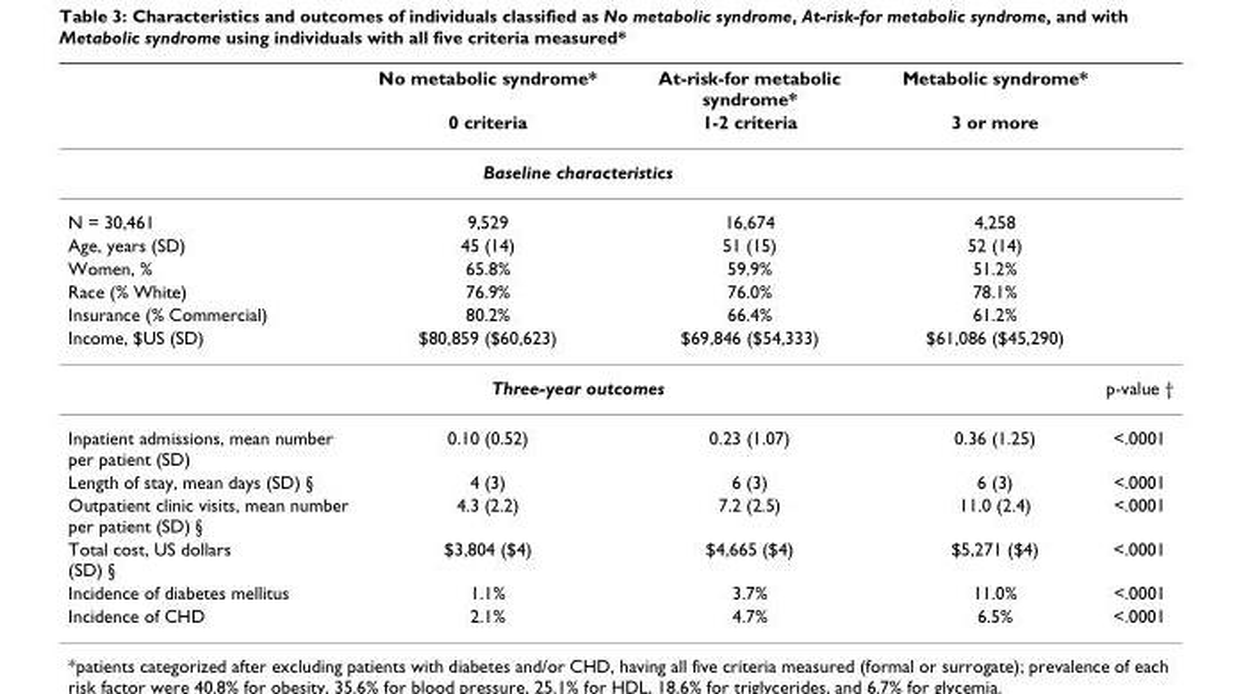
<table><thead><tr><td rowspan="2"></td><td rowspan="2">No metabolic syndrome* 0 criteria</td><td rowspan="2">At-risk-for metabolic syndrome* 1-2 criteria</td><td rowspan="2">Metabolic syndrome* 3 or more</td><td rowspan="2"></td></tr><tr></tr></thead><tbody><tr><td colspan="5">Baseline characteristics</td></tr><tr><td>N = 30,461</td><td>9,529</td><td>16,674</td><td>4,258</td><td></td></tr><tr><td>Age, years (SD)</td><td>45 (14)</td><td>51 (15)</td><td>52 (14)</td><td></td></tr><tr><td>Women, %</td><td>65.8%</td><td>59.9%</td><td>51.2%</td><td></td></tr><tr><td>Race (% White)</td><td>76.9%</td><td>76.0%</td><td>78.1%</td><td></td></tr><tr><td>Insurance (% Commercial)</td><td>80.2%</td><td>66.4%</td><td>61.2%</td><td></td></tr><tr><td>Income, $US (SD)</td><td>$80,859 ($60,623)</td><td>$69,846 ($54,333)</td><td>$61,086 ($45,290)</td><td></td></tr><tr><td colspan="4">Three-year outcomes</td><td>p-value †</td></tr><tr><td>Inpatient admissions, mean number per patient (SD)</td><td>0.10 (0.52)</td><td>0.23 (1.07)</td><td>0.36 (1.25)</td><td>&lt;.0001</td></tr><tr><td>Length of stay, mean days (SD) §</td><td>4 (3)</td><td>6 (3)</td><td>6 (3)</td><td>&lt;.0001</td></tr><tr><td>Outpatient clinic visits, mean number per patient (SD) §</td><td>4.3 (2.2)</td><td>7.2 (2.5)</td><td>11.0 (2.4)</td><td>&lt;.0001</td></tr><tr><td>Total cost, US dollars (SD) §</td><td>$3,804 ($4)</td><td>$4,665 ($4)</td><td>$5,271 ($4)</td><td>&lt;.0001</td></tr><tr><td>Incidence of diabetes mellitus</td><td>1.1%</td><td>3.7%</td><td>11.0%</td><td>&lt;.0001</td></tr><tr><td>Incidence of CHD</td><td>2.1%</td><td>4.7%</td><td>6.5%</td><td>&lt;.0001</td></tr></tbody></table>